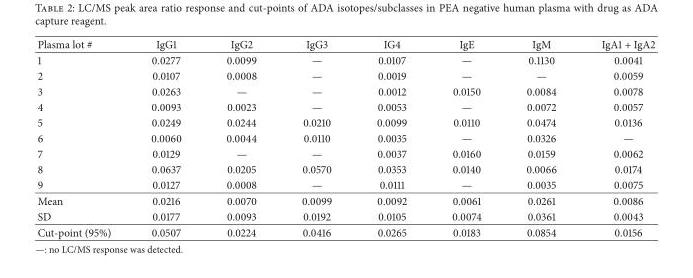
<table><thead><tr><td>Plasma lot #</td><td>IgG1</td><td>IgG2</td><td>IgG3</td><td>IG4</td><td>IgE</td><td>IgM</td><td>IgA1 + IgA2</td></tr></thead><tbody><tr><td>1</td><td>0.0277</td><td>0.0099</td><td>—</td><td>0.0107</td><td>—</td><td>0.1130</td><td>0.0041</td></tr><tr><td>2</td><td>0.0107</td><td>0.0008</td><td>—</td><td>0.0019</td><td>—</td><td>—</td><td>0.0059</td></tr><tr><td>3</td><td>0.0263</td><td>—</td><td>—</td><td>0.0012</td><td>0.0150</td><td>0.0084</td><td>0.0078</td></tr><tr><td>4</td><td>0.0093</td><td>0.0023</td><td>—</td><td>0.0053</td><td>—</td><td>0.0072</td><td>0.0057</td></tr><tr><td>5</td><td>0.0249</td><td>0.0244</td><td>0.0210</td><td>0.0099</td><td>0.0110</td><td>0.0474</td><td>0.0136</td></tr><tr><td>6</td><td>0.0060</td><td>0.0044</td><td>0.0110</td><td>0.0035</td><td>—</td><td>0.0326</td><td>—</td></tr><tr><td>7</td><td>0.0129</td><td>—</td><td>—</td><td>0.0037</td><td>0.0160</td><td>0.0159</td><td>0.0062</td></tr><tr><td>8</td><td>0.0637</td><td>0.0205</td><td>0.0570</td><td>0.0353</td><td>0.0140</td><td>0.0066</td><td>0.0174</td></tr><tr><td>9</td><td>0.0127</td><td>0.0008</td><td>—</td><td>0.0111</td><td>—</td><td>0.0035</td><td>0.0075</td></tr><tr><td>Mean</td><td>0.0216</td><td>0.0070</td><td>0.0099</td><td>0.0092</td><td>0.0061</td><td>0.0261</td><td>0.0086</td></tr><tr><td>SD</td><td>0.0177</td><td>0.0093</td><td>0.0192</td><td>0.0105</td><td>0.0074</td><td>0.0361</td><td>0.0043</td></tr><tr><td>Cut-point (95%)</td><td>0.0507</td><td>0.0224</td><td>0.0416</td><td>0.0265</td><td>0.0183</td><td>0.0854</td><td>0.0156</td></tr></tbody></table>